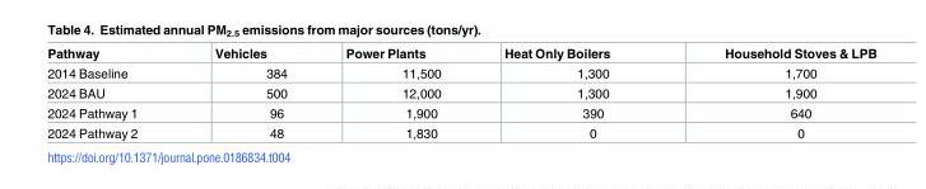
<table><thead><tr><td>Pathway</td><td>Vehicles</td><td>Power Plants</td><td>Heat Only Boilers</td><td>Household Stoves &amp; LPB</td></tr></thead><tbody><tr><td>2014 Baseline</td><td>384</td><td>11,500</td><td>1,300</td><td>1,700</td></tr><tr><td>2024 BAU</td><td>500</td><td>12,000</td><td>1,300</td><td>1,900</td></tr><tr><td>2024 Pathway 1</td><td>96</td><td>1,900</td><td>390</td><td>640</td></tr><tr><td>2024 Pathway 2</td><td>48</td><td>1,830</td><td>0</td><td>0</td></tr></tbody></table>